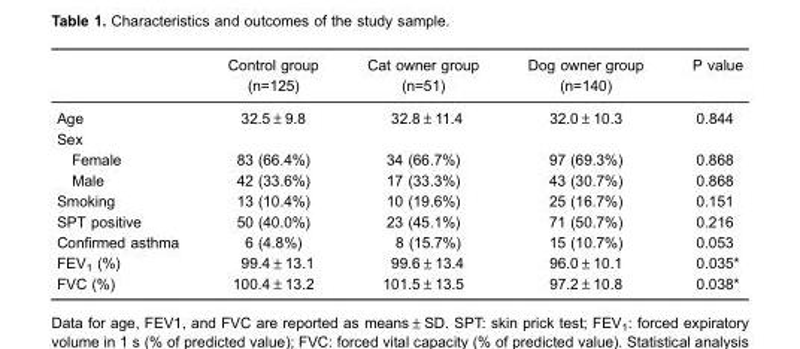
<table><thead><tr><td></td><td>Control group (n=125)</td><td>Cat owner group (n=51)</td><td>Dog owner group (n=140)</td><td>P value</td></tr></thead><tbody><tr><td>Age</td><td>32.5±9.8</td><td>32.8±11.4</td><td>32.0±10.3</td><td>0.844</td></tr><tr><td colspan="5">Sex</td></tr><tr><td>Female</td><td>83 (66.4%)</td><td>34 (66.7%)</td><td>97 (69.3%)</td><td>0.868</td></tr><tr><td>Male</td><td>42 (33.6%)</td><td>17 (33.3%)</td><td>43 (30.7%)</td><td>0.868</td></tr><tr><td>Smoking</td><td>13 (10.4%)</td><td>10 (19.6%)</td><td>25 (16.7%)</td><td>0.151</td></tr><tr><td>SPT positive</td><td>50 (40.0%)</td><td>23 (45.1%)</td><td>71 (50.7%)</td><td>0.216</td></tr><tr><td>Confirmed asthma</td><td>6 (4.8%)</td><td>8 (15.7%)</td><td>15 (10.7%)</td><td>0.053</td></tr><tr><td>FEV<sub>1</sub> (%)</td><td>99.4±13.1</td><td>99.6±13.4</td><td>96.0±10.1</td><td>0.035*</td></tr><tr><td>FVC (%)</td><td>100.4±13.2</td><td>101.5±13.5</td><td>97.2±10.8</td><td>0.038*</td></tr></tbody></table>